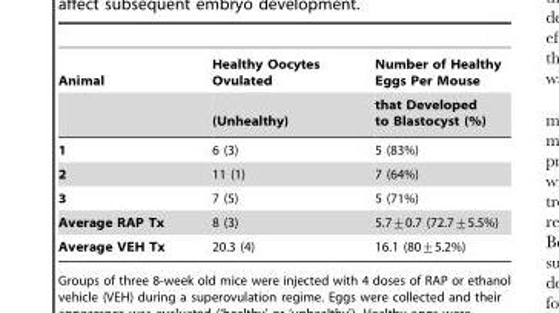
<table><thead><tr><td rowspan="2">Animal</td><td rowspan="2">Healthy Oocytes Ovulated (Unhealthy)</td><td rowspan="2">Number of Healthy Eggs Per Mouse that Developed to Blastocyst (%)</td></tr><tr></tr></thead><tbody><tr><td>1</td><td>6 (3)</td><td>5 (83%)</td></tr><tr><td>2</td><td>11 (1)</td><td>7 (64%)</td></tr><tr><td>3</td><td>7 (5)</td><td>5 (71%)</td></tr><tr><td>Average RAP Tx</td><td>8 (3)</td><td>5.7+0.7 (72.7+5.5%)</td></tr><tr><td>Average VEH Tx</td><td>20.3 (4)</td><td>16.1 (80+5.2%)</td></tr></tbody></table>